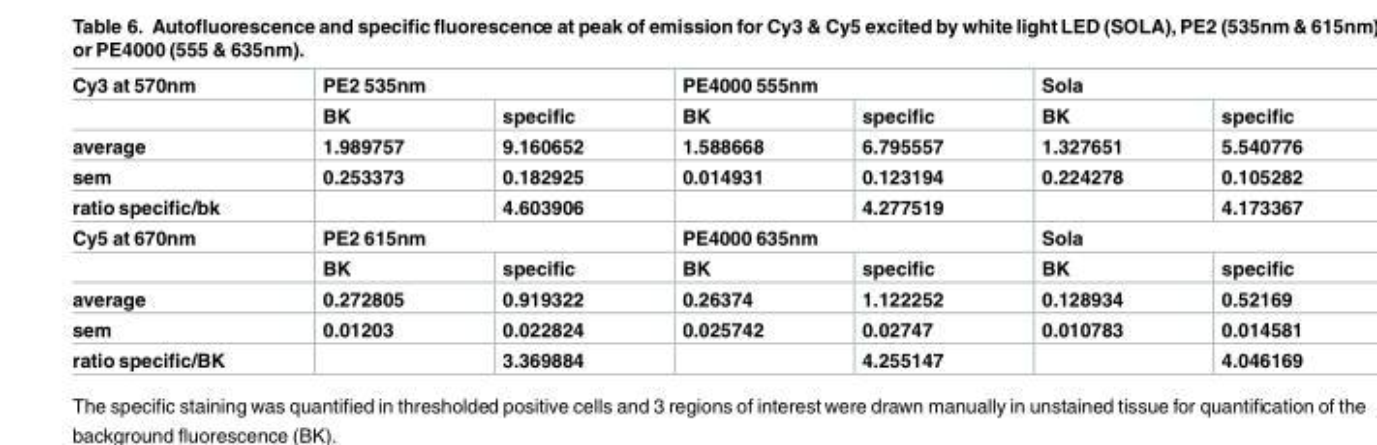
<table><tbody><tr><td rowspan="2">Cy3 at 570nm</td><td colspan="2">PE2 535nm</td><td colspan="2">PE4000 555nm</td><td colspan="2">Sola</td></tr><tr><td>BK</td><td>specific</td><td>BK</td><td>specific</td><td>BK</td><td>specific</td></tr><tr><td>average</td><td>1.989757</td><td>9.160652</td><td>1.588668</td><td>6.795557</td><td>1.327651</td><td>5.540776</td></tr><tr><td>sem</td><td>0.253373</td><td>0.182925</td><td>0.014931</td><td>0.123194</td><td>0.224278</td><td>0.105282</td></tr><tr><td>ratio specific/bk</td><td></td><td>4.603906</td><td></td><td>4.277519</td><td></td><td>4.173367</td></tr><tr><td rowspan="2">Cy5 at 670nm</td><td colspan="2">PE2 615nm</td><td colspan="2">PE4000 635nm</td><td colspan="2">Sola</td></tr><tr><td>BK</td><td>specific</td><td>BK</td><td>specific</td><td>BK</td><td>specific</td></tr><tr><td>average</td><td>0.272805</td><td>0.919322</td><td>0.26374</td><td>1.122252</td><td>0.128934</td><td>0.52169</td></tr><tr><td>sem</td><td>0.01203</td><td>0.022824</td><td>0.025742</td><td>0.02747</td><td>0.010783</td><td>0.014581</td></tr><tr><td>ratio specific/BK</td><td></td><td>3.369884</td><td></td><td>4.255147</td><td></td><td>4.046169</td></tr></tbody></table>